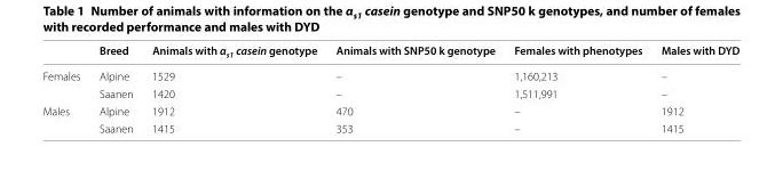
<table><thead><tr><td></td><td>Breed</td><td>Animals with α<sub>s1</sub> casein genotype</td><td>Animals with SNP50 k genotype</td><td>Females with phenotypes</td><td>Males with DYD</td></tr></thead><tbody><tr><td rowspan="2">Females</td><td>Alpine</td><td>1529</td><td>–</td><td>1,160,213</td><td>–</td></tr><tr><td>Saanen</td><td>1420</td><td>–</td><td>1,511,991</td><td>–</td></tr><tr><td rowspan="2">Males</td><td>Alpine</td><td>1912</td><td>470</td><td>–</td><td>1912</td></tr><tr><td>Saanen</td><td>1415</td><td>353</td><td>–</td><td>1415</td></tr></tbody></table>